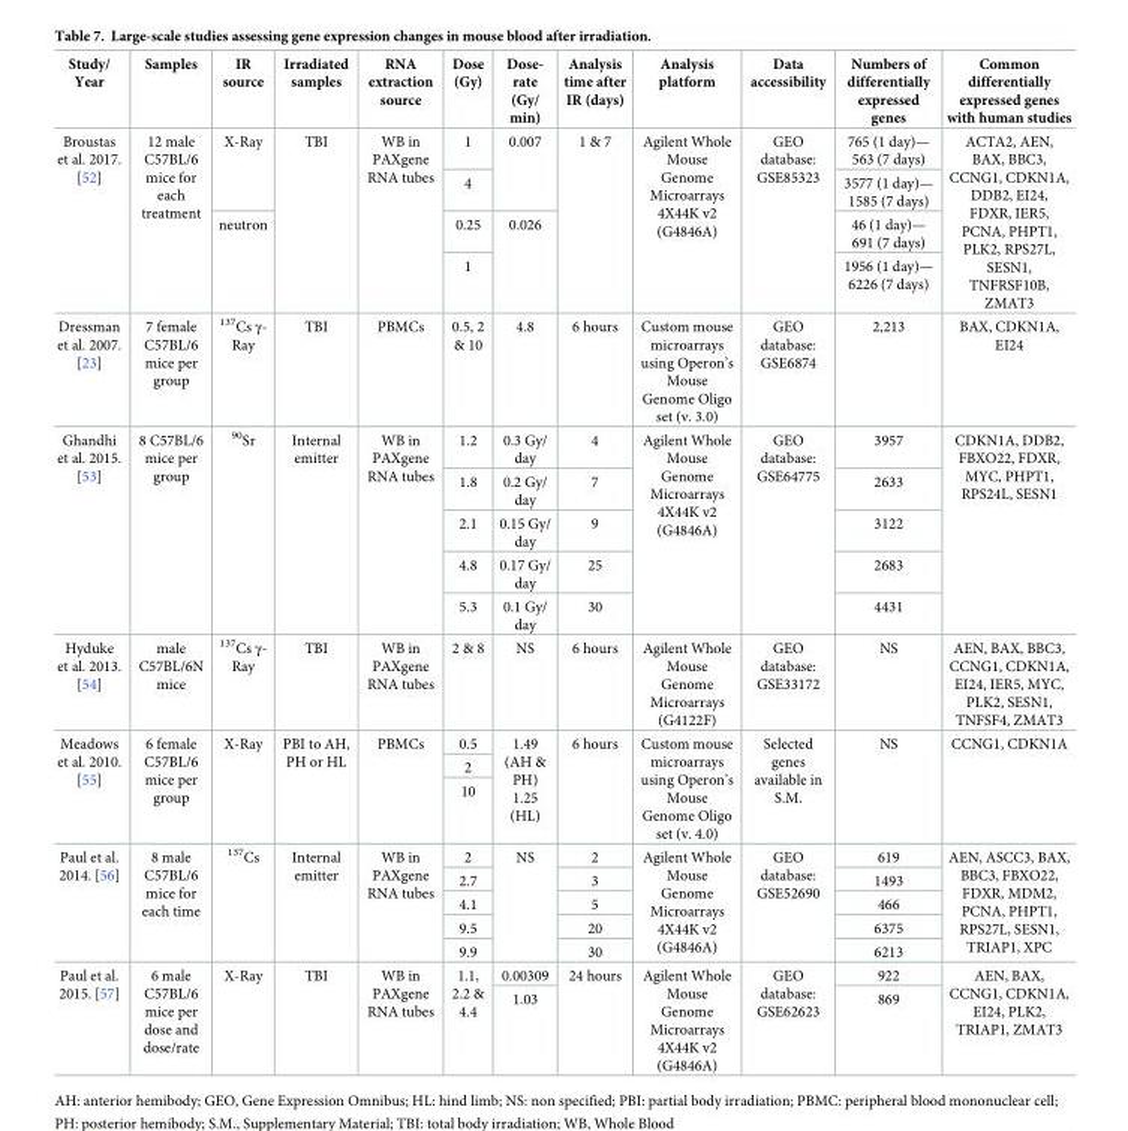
<table><thead><tr><td>Study/ Year</td><td>Samples</td><td>IR source</td><td>Irradiated samples</td><td>RNA extraction source</td><td>Dose (Gy)</td><td>Dose- rate (Gy/ min)</td><td>Analysis time after IR (days)</td><td>Analysis platform</td><td>Data accessibility</td><td>Numbers of differentially expressed genes</td><td>Common differentially expressed genes with human studies</td></tr></thead><tbody><tr><td rowspan="4">Broustas et al. 2017. [52]</td><td rowspan="4">12 male C57BL/6 mice for each treatment</td><td rowspan="2">X-Ray</td><td rowspan="4">TBI</td><td rowspan="4">WB in PAXgene RNA tubes</td><td>1</td><td rowspan="2">0.007</td><td rowspan="4">1 &amp; 7</td><td rowspan="4">Agilent Whole Mouse Genome Microarrays 4X44K v2 (G4846A)</td><td rowspan="4">GEO database: GSE85323</td><td>765 (1 day)— 563 (7 days)</td><td rowspan="4">ACTA2, AEN, BAX, BBC3, CCNG1, CDKN1A, DDB2, EI24, FDXR, IER5, PCNA, PHPT1, PLK2, RPS27L, SESN1, TNFRSF10B, ZMAT3</td></tr><tr><td>4</td><td>3577 (1 day)— 1585 (7 days)</td></tr><tr><td rowspan="2">neutron</td><td>0.25</td><td rowspan="2">0.026</td><td>46 (1 day)— 691 (7 days)</td></tr><tr><td>1</td><td>1956 (1 day)— 6226 (7 days)</td></tr><tr><td>Dressman et al. 2007. [23]</td><td>7 female C57BL/6 mice per group</td><td><sup>137</sup>Cs γ- Ray</td><td>TBI</td><td>PBMCs</td><td>0.5, 2 &amp; 10</td><td>4.8</td><td>6 hours</td><td>Custom mouse microarrays using Operon’s Mouse Genome Oligo set (v. 3.0)</td><td>GEO database: GSE6874</td><td>2,213</td><td>BAX, CDKN1A, EI24</td></tr><tr><td rowspan="5">Ghandhi et al. 2015. [53]</td><td rowspan="5">8 C57BL/6 mice per group</td><td rowspan="5"><sup>90</sup>Sr</td><td rowspan="5">Internal emitter</td><td rowspan="5">WB in PAXgene RNA tubes</td><td>1.2</td><td>0.3 Gy/ day</td><td>4</td><td rowspan="5">Agilent Whole Mouse Genome Microarrays 4X44K v2 (G4846A)</td><td rowspan="5">GEO database: GSE64775</td><td>3957</td><td rowspan="5">CDKN1A, DDB2, FBXO22, FDXR, MYC, PHPT1, RPS24L, SESN1</td></tr><tr><td>1.8</td><td>0.2 Gy/ day</td><td>7</td><td>2633</td></tr><tr><td>2.1</td><td>0.15 Gy/ day</td><td>9</td><td>3122</td></tr><tr><td>4.8</td><td>0.17 Gy/ day</td><td>25</td><td>2683</td></tr><tr><td>5.3</td><td>0.1 Gy/ day</td><td>30</td><td>4431</td></tr><tr><td>Hyduke et al. 2013. [54]</td><td>male C57BL/6N mice</td><td><sup>137</sup>Cs γ- Ray</td><td>TBI</td><td>WB in PAXgene RNA tubes</td><td>2 &amp; 8</td><td>NS</td><td>6 hours</td><td>Agilent Whole Mouse Genome Microarrays (G4122F)</td><td>GEO database: GSE33172</td><td>NS</td><td>AEN, BAX, BBC3, CCNG1, CDKN1A, EI24, IER5, MYC, PLK2, SESN1, TNFSF4, ZMAT3</td></tr><tr><td rowspan="3">Meadows et al. 2010. [55]</td><td rowspan="3">6 female C57BL/6 mice per group</td><td rowspan="3">X-Ray</td><td rowspan="3">PBI to AH, PH or HL</td><td rowspan="3">PBMCs</td><td>0.5</td><td rowspan="3">1.49 (AH &amp; PH) 1.25 (HL)</td><td rowspan="3">6 hours</td><td rowspan="3">Custom mouse microarrays using Operon’s Mouse Genome Oligo set (v. 4.0)</td><td rowspan="3">Selected genes available in S.M.</td><td rowspan="3">NS</td><td rowspan="3">CCNG1, CDKN1A</td></tr><tr><td>2</td></tr><tr><td>10</td></tr><tr><td rowspan="5">Paul et al. 2014. [56]</td><td rowspan="5">8 male C57BL/6 mice for each time</td><td rowspan="5"><sup>137</sup>Cs</td><td rowspan="5">Internal emitter</td><td rowspan="5">WB in PAXgene RNA tubes</td><td>2</td><td rowspan="5">NS</td><td>2</td><td rowspan="5">Agilent Whole Mouse Genome Microarrays 4X44K v2 (G4846A)</td><td rowspan="5">GEO database: GSE52690</td><td>619</td><td rowspan="5">AEN, ASCC3, BAX, BBC3, FBXO22, FDXR, MDM2, PCNA, PHPT1, RPS27L, SESN1, TRIAP1, XPC</td></tr><tr><td>2.7</td><td>3</td><td>1493</td></tr><tr><td>4.1</td><td>5</td><td>466</td></tr><tr><td>9.5</td><td>20</td><td>6375</td></tr><tr><td>9.9</td><td>30</td><td>6213</td></tr><tr><td rowspan="2">Paul et al. 2015. [57]</td><td rowspan="2">6 male C57BL/6 mice per dose and dose/rate</td><td rowspan="2">X-Ray</td><td rowspan="2">TBI</td><td rowspan="2">WB in PAXgene RNA tubes</td><td rowspan="2">1.1, 2.2 &amp; 4.4</td><td>0.00309</td><td rowspan="2">24 hours</td><td rowspan="2">Agilent Whole Mouse Genome Microarrays 4X44K v2 (G4846A)</td><td rowspan="2">GEO database: GSE62623</td><td>922</td><td rowspan="2">AEN, BAX, CCNG1, CDKN1A, EI24, PLK2, TRIAP1, ZMAT3</td></tr><tr><td>1.03</td><td>869</td></tr></tbody></table>